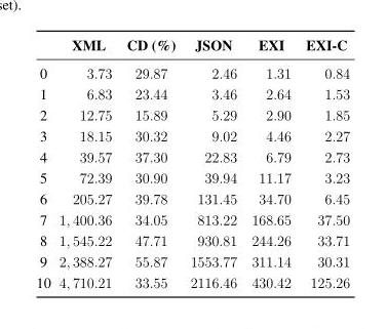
<table><thead><tr><td></td><td>XML</td><td>CD (%)</td><td>JSON</td><td>EXI</td><td>EXI-C</td></tr></thead><tbody><tr><td>0</td><td>3.73</td><td>29.87</td><td>2.46</td><td>1.31</td><td>0.84</td></tr><tr><td>1</td><td>6.83</td><td>23.44</td><td>3.46</td><td>2.64</td><td>1.53</td></tr><tr><td>2</td><td>12.75</td><td>15.89</td><td>5.29</td><td>2.90</td><td>1.85</td></tr><tr><td>3</td><td>18.15</td><td>30.32</td><td>9.02</td><td>4.46</td><td>2.27</td></tr><tr><td>4</td><td>39.57</td><td>37.30</td><td>22.83</td><td>6.79</td><td>2.73</td></tr><tr><td>5</td><td>72.39</td><td>30.90</td><td>39.94</td><td>11.17</td><td>3.23</td></tr><tr><td>6</td><td>205.27</td><td>39.78</td><td>131.45</td><td>34.70</td><td>6.45</td></tr><tr><td>7</td><td>1, 400.36</td><td>34.05</td><td>813.22</td><td>168.65</td><td>37.50</td></tr><tr><td>8</td><td>1, 545.22</td><td>47.71</td><td>930.81</td><td>244.26</td><td>33.71</td></tr><tr><td>9</td><td>2, 388.27</td><td>55.87</td><td>1553.77</td><td>311.14</td><td>30.31</td></tr><tr><td>10</td><td>4, 710.21</td><td>33.55</td><td>2116.46</td><td>430.42</td><td>125.26</td></tr></tbody></table>